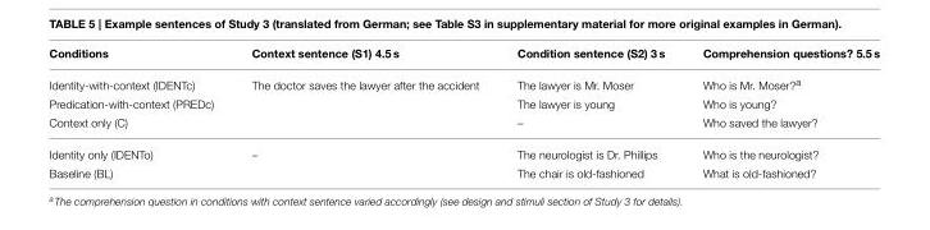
<table><thead><tr><td>Conditions</td><td>Context sentence (S1) 4.5 s</td><td>Condition sentence (S2) 3 s</td><td>Comprehension questions? 5.5 s</td></tr></thead><tbody><tr><td>Identity-with-context (IDENTc)</td><td>The doctor saves the lawyer after the accident</td><td>The lawyer is Mr. Moser</td><td>Who is Mr. Moser?<sup>a</sup></td></tr><tr><td>Predication-with-context (PREDc)</td><td></td><td>The lawyer is young</td><td>Who is young?</td></tr><tr><td>Context only (C)</td><td></td><td>–</td><td>Who saved the lawyer?</td></tr><tr><td>Identity only (IDENTo)</td><td>–</td><td>The neurologist is Dr. Phillips</td><td>Who is the neurologist?</td></tr><tr><td>Baseline (BL)</td><td></td><td>The chair is old-fashioned</td><td>What is old-fashioned?</td></tr></tbody></table>